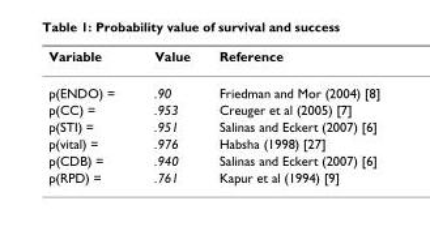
<table><thead><tr><td>Variable</td><td>Value</td><td>Reference</td></tr></thead><tbody><tr><td>p(ENDO) =</td><td>.90</td><td>Friedman and Mor (2004) [8]</td></tr><tr><td>p(CC) =</td><td>.953</td><td>Creuger et al (2005) [7]</td></tr><tr><td>p(STI) =</td><td>.951</td><td>Salinas and Eckert (2007) [6]</td></tr><tr><td>p(vital) =</td><td>.976</td><td>Habsha (1998) [27]</td></tr><tr><td>p(CDB) =</td><td>.940</td><td>Salinas and Eckert (2007) [6]</td></tr><tr><td>p(RPD) =</td><td>.761</td><td>Kapur et al (1994) [9]</td></tr></tbody></table>